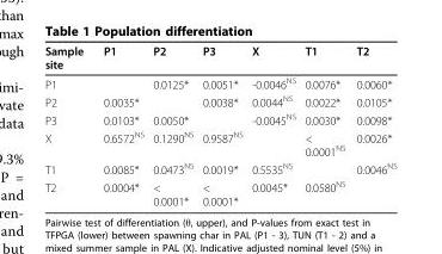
<table><thead><tr><td>Sample site</td><td>P1</td><td>P2</td><td>P3</td><td>X</td><td>T1</td><td>T2</td></tr></thead><tbody><tr><td>P1</td><td></td><td>0.0125*</td><td>0.0051*</td><td>-0.0046<sup>NS</sup></td><td>0.0076*</td><td>0.0060*</td></tr><tr><td>P2</td><td>0.0035*</td><td></td><td>0.0038*</td><td>0.0044<sup>NS</sup></td><td>0.0022*</td><td>0.0105*</td></tr><tr><td>P3</td><td>0.0103*</td><td>0.0050*</td><td></td><td>-0.0045<sup>NS</sup></td><td>0.0030*</td><td>0.0098*</td></tr><tr><td>X</td><td>0.6572<sup>NS</sup></td><td>0.1290<sup>NS</sup></td><td>0.9587<sup>NS</sup></td><td></td><td>&lt; 0.0001<sup>NS</sup></td><td>0.0026*</td></tr><tr><td>T1</td><td>0.0085*</td><td>0.0473<sup>NS</sup></td><td>0.0019*</td><td>0.5535<sup>NS</sup></td><td></td><td>0.0046<sup>NS</sup></td></tr><tr><td>T2</td><td>0.0004*</td><td>&lt; 0.0001*</td><td>&lt; 0.0001*</td><td>0.0045*</td><td>0.0580<sup>NS</sup></td><td></td></tr></tbody></table>